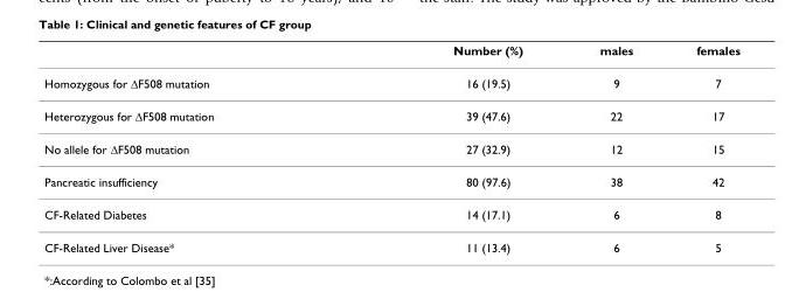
<table><thead><tr><td></td><td>Number (%)</td><td>males</td><td>females</td></tr></thead><tbody><tr><td>Homozygous for ΔF508 mutation</td><td>16 (19.5)</td><td>9</td><td>7</td></tr><tr><td>Heterozygous for ΔF508 mutation</td><td>39 (47.6)</td><td>22</td><td>17</td></tr><tr><td>No allele for ΔF508 mutation</td><td>27 (32.9)</td><td>12</td><td>15</td></tr><tr><td>Pancreatic insufficiency</td><td>80 (97.6)</td><td>38</td><td>42</td></tr><tr><td>CF-Related Diabetes</td><td>14 (17.1)</td><td>6</td><td>8</td></tr><tr><td>CF-Related Liver Disease*</td><td>11 (13.4)</td><td>6</td><td>5</td></tr></tbody></table>